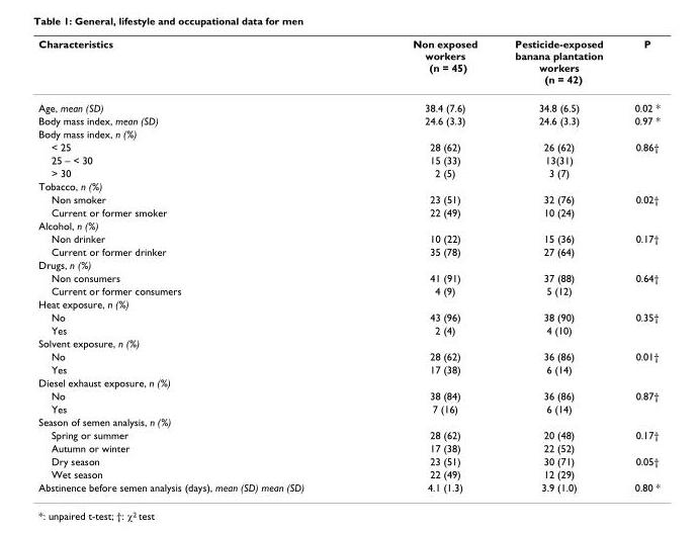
<table><thead><tr><td>Characteristics</td><td>Non exposed workers (n = 45)</td><td>Pesticide-exposed banana plantation workers (n = 42)</td><td>P</td></tr></thead><tbody><tr><td>Age, mean (SD)</td><td>38.4 (7.6)</td><td>34.8 (6.5)</td><td>0.02 *</td></tr><tr><td>Body mass index, mean (SD)</td><td>24.6 (3.3)</td><td>24.6 (3.3)</td><td>0.97 *</td></tr><tr><td colspan="4">Body mass index, n (%)</td></tr><tr><td>&lt; 25</td><td>28 (62)</td><td>26 (62)</td><td>0.86†</td></tr><tr><td>25 – &lt; 30</td><td>15 (33)</td><td>13(31)</td><td></td></tr><tr><td>&gt; 30</td><td>2 (5)</td><td>3 (7)</td><td></td></tr><tr><td colspan="4">Tobacco, n (%)</td></tr><tr><td>Non smoker</td><td>23 (51)</td><td>32 (76)</td><td>0.02†</td></tr><tr><td>Current or former smoker</td><td>22 (49)</td><td>10 (24)</td><td></td></tr><tr><td colspan="4">Alcohol, n (%)</td></tr><tr><td>Non drinker</td><td>10 (22)</td><td>15 (36)</td><td>0.17†</td></tr><tr><td>Current or former drinker</td><td>35 (78)</td><td>27 (64)</td><td></td></tr><tr><td colspan="4">Drugs, n (%)</td></tr><tr><td>Non consumers</td><td>41 (91)</td><td>37 (88)</td><td>0.64†</td></tr><tr><td>Current or former consumers</td><td>4 (9)</td><td>5 (12)</td><td></td></tr><tr><td colspan="4">Heat exposure, n (%)</td></tr><tr><td>No</td><td>43 (96)</td><td>38 (90)</td><td>0.35†</td></tr><tr><td>Yes</td><td>2 (4)</td><td>4 (10)</td><td></td></tr><tr><td colspan="4">Solvent exposure, n (%)</td></tr><tr><td>No</td><td>28 (62)</td><td>36 (86)</td><td>0.01†</td></tr><tr><td>Yes</td><td>17 (38)</td><td>6 (14)</td><td></td></tr><tr><td colspan="4">Diesel exhaust exposure, n (%)</td></tr><tr><td>No</td><td>38 (84)</td><td>36 (86)</td><td>0.87†</td></tr><tr><td>Yes</td><td>7 (16)</td><td>6 (14)</td><td></td></tr><tr><td colspan="4">Season of semen analysis, n (%)</td></tr><tr><td>Spring or summer</td><td>28 (62)</td><td>20 (48)</td><td>0.17†</td></tr><tr><td>Autumn or winter</td><td>17 (38)</td><td>22 (52)</td><td></td></tr><tr><td>Dry season</td><td>23 (51)</td><td>30 (71)</td><td>0.05†</td></tr><tr><td>Wet season</td><td>22 (49)</td><td>12 (29)</td><td></td></tr><tr><td>Abstinence before semen analysis (days), mean (SD) mean (SD)</td><td>4.1 (1.3)</td><td>3.9 (1.0)</td><td>0.80 *</td></tr></tbody></table>